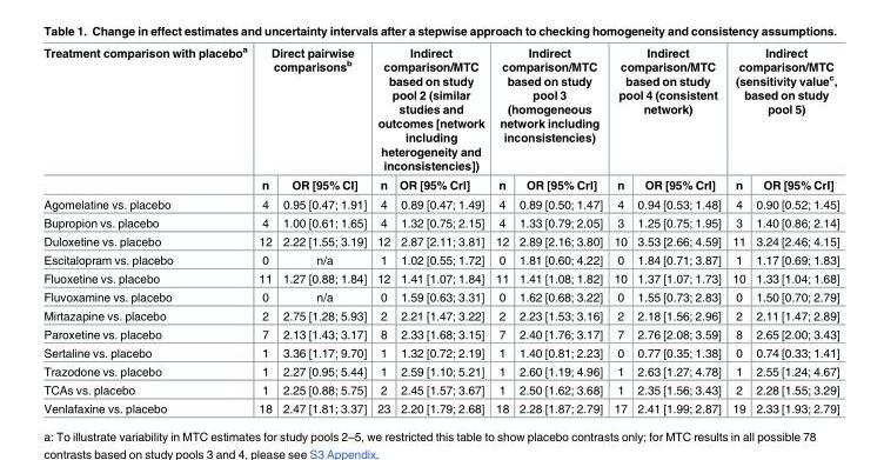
<table><thead><tr><td rowspan="2">Treatment comparison with placebo<sup>a</sup></td><td colspan="2">Direct pairwise comparisons<sup>b</sup></td><td colspan="2">Indirect comparison/MTC based on study pool 2 (similar studies and outcomes [network including heterogeneity and inconsistencies])</td><td colspan="2">Indirect comparison/MTC based on study pool 3 (homogeneous network including inconsistencies)</td><td colspan="2">Indirect comparison/MTC based on study pool 4 (consistent network)</td><td colspan="2">Indirect comparison/MTC (sensitivity value<sup>c</sup>, based on study pool 5)</td></tr><tr><td>n</td><td>OR [95% CI]</td><td>n</td><td>OR [95% CrI]</td><td>n</td><td>OR [95% CrI]</td><td>n</td><td>OR [95% CrI]</td><td>n</td><td>OR [95% CrI]</td></tr></thead><tbody><tr><td>Agomelatine vs. placebo</td><td>4</td><td>0.95 [0.47; 1.91]</td><td>4</td><td>0.89 [0.47; 1.49]</td><td>4</td><td>0.89 [0.50; 1.47]</td><td>4</td><td>0.94 [0.53; 1.48]</td><td>4</td><td>0.90 [0.52; 1.45]</td></tr><tr><td>Bupropion vs. placebo</td><td>4</td><td>1.00 [0.61; 1.65]</td><td>4</td><td>1.32 [0.75; 2.15]</td><td>4</td><td>1.33 [0.79; 2.05]</td><td>3</td><td>1.25 [0.75; 1.95]</td><td>3</td><td>1.40 [0.86; 2.14]</td></tr><tr><td>Duloxetine vs. placebo</td><td>12</td><td>2.22 [1.55; 3.19]</td><td>12</td><td>2.87 [2.11; 3.81]</td><td>12</td><td>2.89 [2.16; 3.80]</td><td>10</td><td>3.53 [2.66; 4.59]</td><td>11</td><td>3.24 [2.46; 4.15]</td></tr><tr><td>Escitalopram vs. placebo</td><td>0</td><td>n/a</td><td>1</td><td>1.02 [0.55; 1.72]</td><td>0</td><td>1.81 [0.60; 4.22]</td><td>0</td><td>1.84 [0.71; 3.87]</td><td>1</td><td>1.17 [0.69; 1.83]</td></tr><tr><td>Fluoxetine vs. placebo</td><td>11</td><td>1.27 [0.88; 1.84]</td><td>12</td><td>1.41 [1.07; 1.84]</td><td>11</td><td>1.41 [1.08; 1.82]</td><td>10</td><td>1.37 [1.07; 1.73]</td><td>10</td><td>1.33 [1.04; 1.68]</td></tr><tr><td>Fluvoxamine vs. placebo</td><td>0</td><td>n/a</td><td>0</td><td>1.59 [0.63; 3.31]</td><td>0</td><td>1.62 [0.68; 3.22]</td><td>0</td><td>1.55 [0.73; 2.83]</td><td>0</td><td>1.50 [0.70; 2.79]</td></tr><tr><td>Mirtazapine vs. placebo</td><td>2</td><td>2.75 [1.28; 5.93]</td><td>2</td><td>2.21 [1.47; 3.22]</td><td>2</td><td>2.23 [1.53; 3.16]</td><td>2</td><td>2.18 [1.56; 2.96]</td><td>2</td><td>2.11 [1.47; 2.89]</td></tr><tr><td>Paroxetine vs. placebo</td><td>7</td><td>2.13 [1.43; 3.17]</td><td>8</td><td>2.33 [1.68; 3.15]</td><td>7</td><td>2.40 [1.76; 3.17]</td><td>7</td><td>2.76 [2.08; 3.59]</td><td>8</td><td>2.65 [2.00; 3.43]</td></tr><tr><td>Sertaline vs. placebo</td><td>1</td><td>3.36 [1.17; 9.70]</td><td>1</td><td>1.32 [0.72; 2.19]</td><td>1</td><td>1.40 [0.81; 2.23]</td><td>0</td><td>0.77 [0.35; 1.38]</td><td>0</td><td>0.74 [0.33; 1.41]</td></tr><tr><td>Trazodone vs. placebo</td><td>1</td><td>2.27 [0.95; 5.44]</td><td>1</td><td>2.59 [1.10; 5.21]</td><td>1</td><td>2.60 [1.19; 4.96]</td><td>1</td><td>2.63 [1.27; 4.78]</td><td>1</td><td>2.55 [1.24; 4.67]</td></tr><tr><td>TCAs vs. placebo</td><td>1</td><td>2.25 [0.88; 5.75]</td><td>2</td><td>2.45 [1.57; 3.67]</td><td>1</td><td>2.50 [1.62; 3.68]</td><td>1</td><td>2.35 [1.56; 3.43]</td><td>2</td><td>2.28 [1.55; 3.29]</td></tr><tr><td>Venlafaxine vs. placebo</td><td>18</td><td>2.47 [1.81; 3.37]</td><td>23</td><td>2.20 [1.79; 2.68]</td><td>18</td><td>2.28 [1.87; 2.79]</td><td>17</td><td>2.41 [1.99; 2.87]</td><td>19</td><td>2.33 [1.93; 2.79]</td></tr></tbody></table>